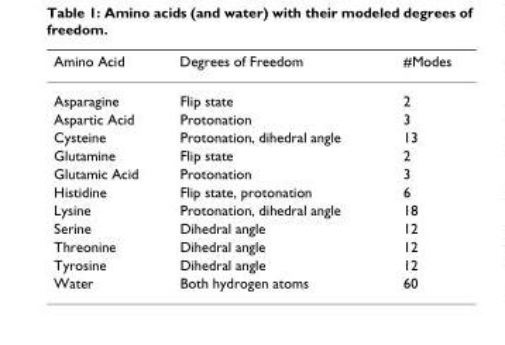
<table><thead><tr><td>Amino Acid</td><td>Degrees of Freedom</td><td>#Modes</td></tr></thead><tbody><tr><td>Asparagine</td><td>Flip state</td><td>2</td></tr><tr><td>Aspartic Acid</td><td>Protonation</td><td>3</td></tr><tr><td>Cysteine</td><td>Protonation, dihedral angle</td><td>13</td></tr><tr><td>Glutamine</td><td>Flip state</td><td>2</td></tr><tr><td>Glutamic Acid</td><td>Protonation</td><td>3</td></tr><tr><td>Histidine</td><td>Flip state, protonation</td><td>6</td></tr><tr><td>Lysine</td><td>Protonation, dihedral angle</td><td>18</td></tr><tr><td>Serine</td><td>Dihedral angle</td><td>12</td></tr><tr><td>Threonine</td><td>Dihedral angle</td><td>12</td></tr><tr><td>Tyrosine</td><td>Dihedral angle</td><td>12</td></tr><tr><td>Water</td><td>Both hydrogen atoms</td><td>60</td></tr></tbody></table>